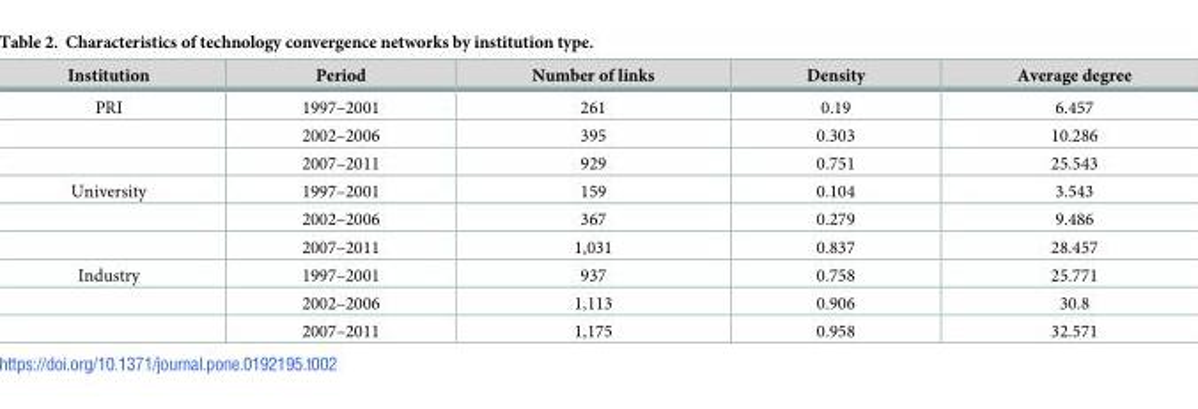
<table><thead><tr><td>Institution</td><td>Period</td><td>Number of links</td><td>Density</td><td>Average degree</td></tr></thead><tbody><tr><td rowspan="3">PRI</td><td>1997–2001</td><td>261</td><td>0.19</td><td>6.457</td></tr><tr><td>2002–2006</td><td>395</td><td>0.303</td><td>10.286</td></tr><tr><td>2007–2011</td><td>929</td><td>0.751</td><td>25.543</td></tr><tr><td rowspan="3">University</td><td>1997–2001</td><td>159</td><td>0.104</td><td>3.543</td></tr><tr><td>2002–2006</td><td>367</td><td>0.279</td><td>9.486</td></tr><tr><td>2007–2011</td><td>1,031</td><td>0.837</td><td>28.457</td></tr><tr><td rowspan="3">Industry</td><td>1997–2001</td><td>937</td><td>0.758</td><td>25.771</td></tr><tr><td>2002–2006</td><td>1,113</td><td>0.906</td><td>30.8</td></tr><tr><td>2007–2011</td><td>1,175</td><td>0.958</td><td>32.571</td></tr></tbody></table>